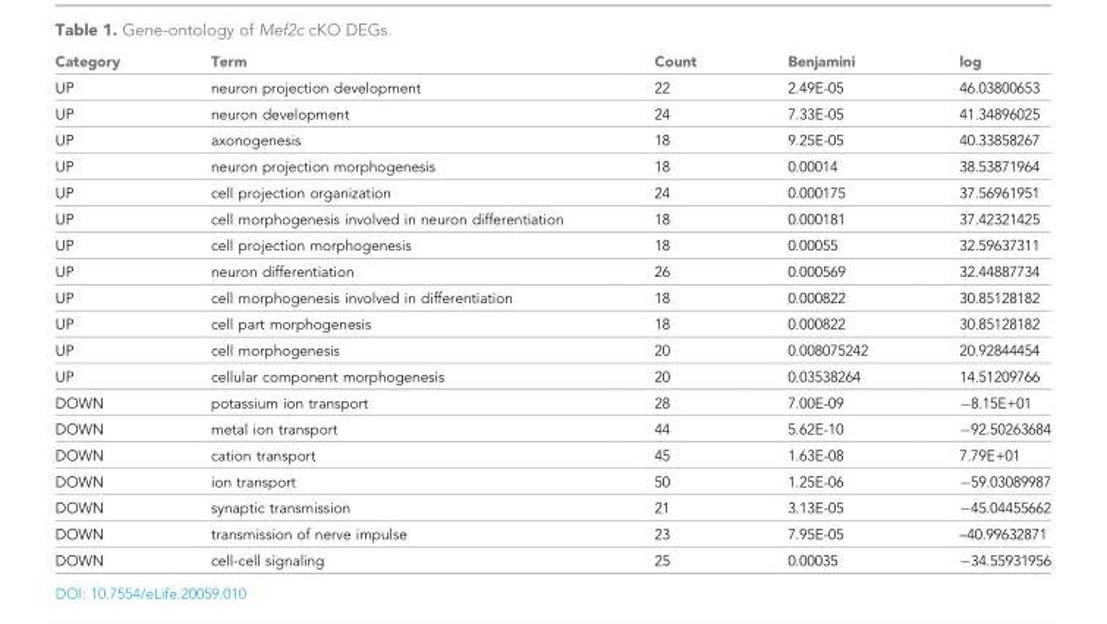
<table><thead><tr><td>Category</td><td>Term</td><td>Count</td><td>Benjamini</td><td>log</td></tr></thead><tbody><tr><td>UP</td><td>neuron projection development</td><td>22</td><td>2.49E-05</td><td>46.03800653</td></tr><tr><td>UP</td><td>neuron development</td><td>24</td><td>7.33E-05</td><td>41.34896025</td></tr><tr><td>UP</td><td>axonogenesis</td><td>18</td><td>9.25E-05</td><td>40.33858267</td></tr><tr><td>UP</td><td>neuron projection morphogenesis</td><td>18</td><td>0.00014</td><td>38.53871964</td></tr><tr><td>UP</td><td>cell projection organization</td><td>24</td><td>0.000175</td><td>37.56961951</td></tr><tr><td>UP</td><td>cell morphogenesis involved in neuron differentiation</td><td>18</td><td>0.000181</td><td>37.42321425</td></tr><tr><td>UP</td><td>cell projection morphogenesis</td><td>18</td><td>0.00055</td><td>32.59637311</td></tr><tr><td>UP</td><td>neuron differentiation</td><td>26</td><td>0.000569</td><td>32.44887734</td></tr><tr><td>UP</td><td>cell morphogenesis involved in differentiation</td><td>18</td><td>0.000822</td><td>30.85128182</td></tr><tr><td>UP</td><td>cell part morphogenesis</td><td>18</td><td>0.000822</td><td>30.85128182</td></tr><tr><td>UP</td><td>cell morphogenesis</td><td>20</td><td>0.008075242</td><td>20.92844454</td></tr><tr><td>UP</td><td>cellular component morphogenesis</td><td>20</td><td>0.03538264</td><td>14.51209766</td></tr><tr><td>DOWN</td><td>potassium ion transport</td><td>28</td><td>7.00E-09</td><td>−8.15E+01</td></tr><tr><td>DOWN</td><td>metal ion transport</td><td>44</td><td>5.62E-10</td><td>−92.50263684</td></tr><tr><td>DOWN</td><td>cation transport</td><td>45</td><td>1.63E-08</td><td>7.79E+01</td></tr><tr><td>DOWN</td><td>ion transport</td><td>50</td><td>1.25E-06</td><td>−59.03089987</td></tr><tr><td>DOWN</td><td>synaptic transmission</td><td>21</td><td>3.13E-05</td><td>−45.04455662</td></tr><tr><td>DOWN</td><td>transmission of nerve impulse</td><td>23</td><td>7.95E-05</td><td>–40.99632871</td></tr><tr><td>DOWN</td><td>cell-cell signaling</td><td>25</td><td>0.00035</td><td>−34.55931956</td></tr></tbody></table>